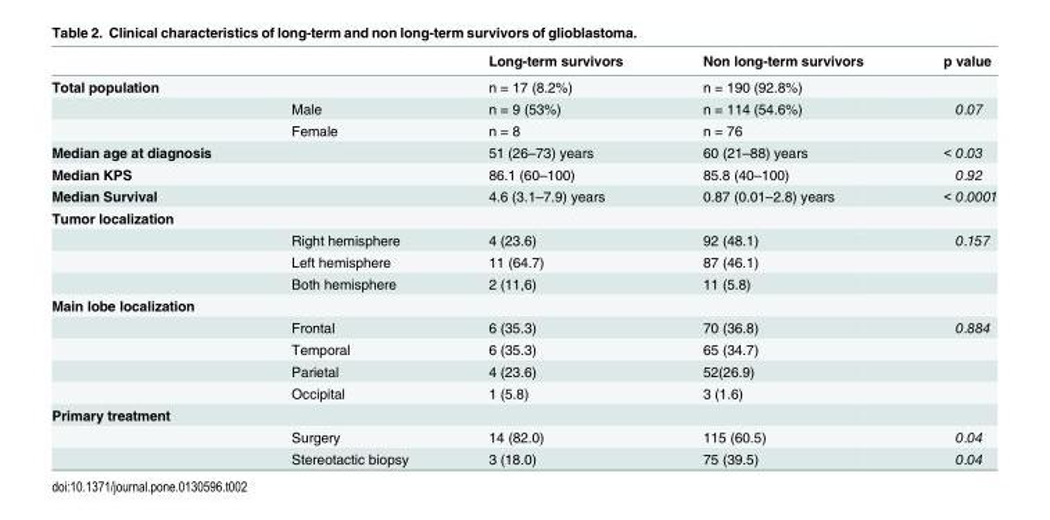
<table><thead><tr><td></td><td></td><td>Long-term survivors</td><td>Non long-term survivors</td><td>p value</td></tr></thead><tbody><tr><td rowspan="3">Total population</td><td></td><td>n = 17 (8.2%)</td><td>n = 190 (92.8%)</td><td></td></tr><tr><td>Male</td><td>n = 9 (53%)</td><td>n = 114 (54.6%)</td><td>0.07</td></tr><tr><td>Female</td><td>n = 8</td><td>n = 76</td><td></td></tr><tr><td>Median age at diagnosis</td><td></td><td>51 (26–73) years</td><td>60 (21–88) years</td><td>&lt; 0.03</td></tr><tr><td>Median KPS</td><td></td><td>86.1 (60–100)</td><td>85.8 (40–100)</td><td>0.92</td></tr><tr><td>Median Survival</td><td></td><td>4.6 (3.1–7.9) years</td><td>0.87 (0.01–2.8) years</td><td>&lt; 0.0001</td></tr><tr><td colspan="5">Tumor localization</td></tr><tr><td></td><td>Right hemisphere</td><td>4 (23.6)</td><td>92 (48.1)</td><td>0.157</td></tr><tr><td></td><td>Left hemisphere</td><td>11 (64.7)</td><td>87 (46.1)</td><td></td></tr><tr><td></td><td>Both hemisphere</td><td>2 (11,6)</td><td>11 (5.8)</td><td></td></tr><tr><td colspan="5">Main lobe localization</td></tr><tr><td></td><td>Frontal</td><td>6 (35.3)</td><td>70 (36.8)</td><td>0.884</td></tr><tr><td></td><td>Temporal</td><td>6 (35.3)</td><td>65 (34.7)</td><td></td></tr><tr><td></td><td>Parietal</td><td>4 (23.6)</td><td>52(26.9)</td><td></td></tr><tr><td></td><td>Occipital</td><td>1 (5.8)</td><td>3 (1.6)</td><td></td></tr><tr><td colspan="5">Primary treatment</td></tr><tr><td></td><td>Surgery</td><td>14 (82.0)</td><td>115 (60.5)</td><td>0.04</td></tr><tr><td></td><td>Stereotactic biopsy</td><td>3 (18.0)</td><td>75 (39.5)</td><td>0.04</td></tr></tbody></table>